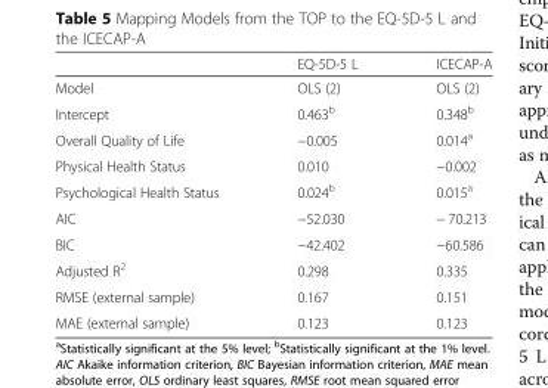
<table><thead><tr><td></td><td>EQ-5D-5 L</td><td>ICECAP-A</td></tr></thead><tbody><tr><td>Model</td><td>OLS (2)</td><td>OLS (2)</td></tr><tr><td>Intercept</td><td>0.463<sup>b</sup></td><td>0.348<sup>b</sup></td></tr><tr><td>Overall Quality of Life</td><td>−0.005</td><td>0.014<sup>a</sup></td></tr><tr><td>Physical Health Status</td><td>0.010</td><td>−0.002</td></tr><tr><td>Psychological Health Status</td><td>0.024<sup>b</sup></td><td>0.015<sup>a</sup></td></tr><tr><td>AIC</td><td>−52.030</td><td>− 70.213</td></tr><tr><td>BIC</td><td>−42.402</td><td>−60.586</td></tr><tr><td>Adjusted R<sup>2</sup></td><td>0.298</td><td>0.335</td></tr><tr><td>RMSE (external sample)</td><td>0.167</td><td>0.151</td></tr><tr><td>MAE (external sample)</td><td>0.123</td><td>0.123</td></tr></tbody></table>